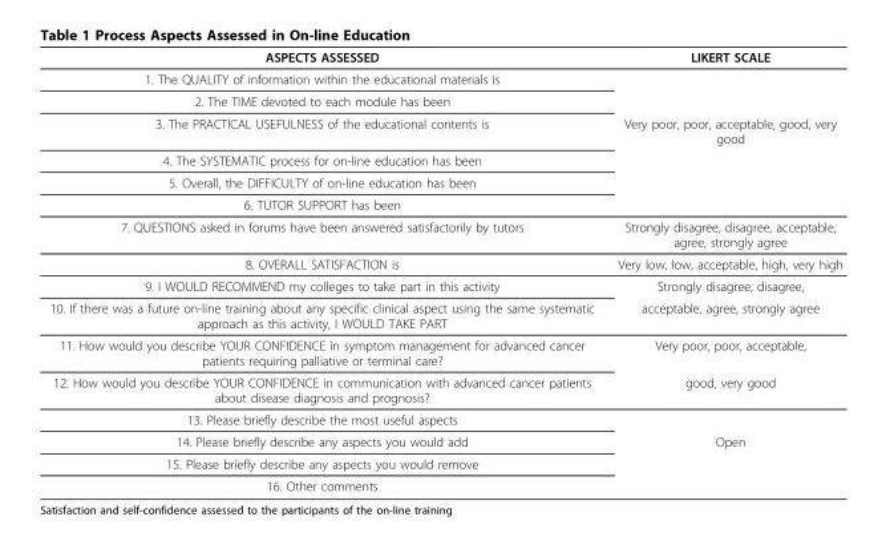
<table><thead><tr><td>ASPECTS ASSESSED</td><td>LIKERT SCALE</td></tr></thead><tbody><tr><td colspan="2">1. The QUALITY of information within the educational materials is</td></tr><tr><td colspan="2">2. The TIME devoted to each module has been</td></tr><tr><td>3. The PRACTICAL USEFULNESS of the educational contents is</td><td>Very poor, poor, acceptable, good, very good</td></tr><tr><td colspan="2">4. The SYSTEMATIC process for on-line education has been</td></tr><tr><td colspan="2">5. Overall, the DIFFICULTY of on-line education has been</td></tr><tr><td colspan="2">6. TUTOR SUPPORT has been</td></tr><tr><td>7. QUESTIONS asked in forums have been answered satisfactorily by tutors</td><td>Strongly disagree, disagree, acceptable, agree, strongly agree</td></tr><tr><td>8. OVERALL SATISFACTION is</td><td>Very low, low, acceptable, high, very high</td></tr><tr><td>9. I WOULD RECOMMEND my colleges to take part in this activity</td><td>Strongly disagree, disagree,</td></tr><tr><td>10. If there was a future on-line training about any specific clinical aspect using the same systematic approach as this activity, I WOULD TAKE PART</td><td>acceptable, agree, strongly agree</td></tr><tr><td>11. How would you describe YOUR CONFIDENCE in symptom management for advanced cancer patients requiring palliative or terminal care?</td><td>Very poor, poor, acceptable,</td></tr><tr><td>12. How would you describe YOUR CONFIDENCE in communication with advanced cancer patients about disease diagnosis and prognosis?</td><td>good, very good</td></tr><tr><td colspan="2">13. Please briefly describe the most useful aspects</td></tr><tr><td>14. Please briefly describe any aspects you would add</td><td>Open</td></tr><tr><td colspan="2">15. Please briefly describe any aspects you would remove</td></tr><tr><td>16. Other comments</td><td></td></tr></tbody></table>